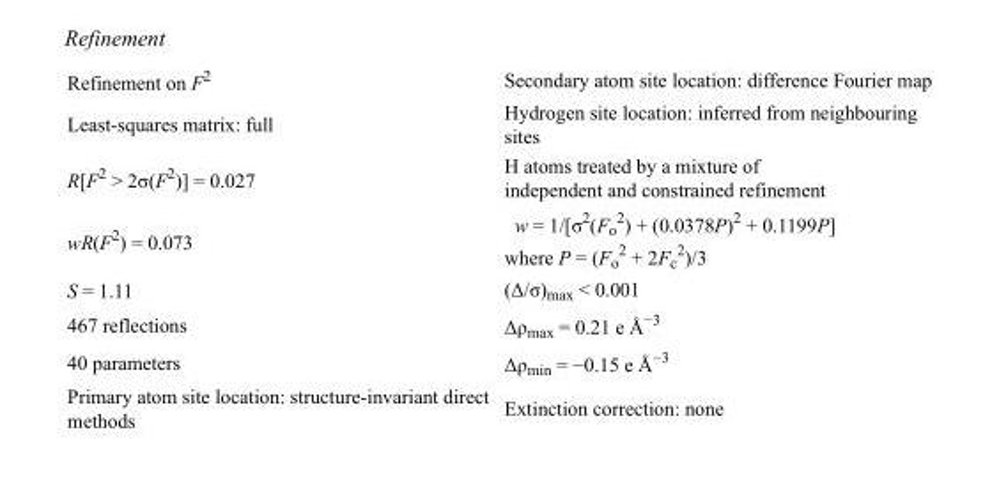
<table><tbody><tr><td>Refinement on F<sup>2</sup></td><td>Secondary atom site location: difference Fourier map</td></tr><tr><td>Least-squares matrix: full</td><td>Hydrogen site location: inferred from neighbouring sites</td></tr><tr><td>R[F<sup>2</sup> &gt; 2σ(F<sup>2</sup>)] = 0.027</td><td>H atoms treated by a mixture of independent and constrained refinement</td></tr><tr><td>wR(F<sup>2</sup>) = 0.073</td><td>w = 1/[σ<sup>2</sup>(F<sub>o</sub> <sup>2</sup>) + (0.0378P)<sup>2</sup> + 0.1199P] where P = (F<sub>o</sub> <sup>2</sup> + 2F<sub>c</sub> <sup>2</sup>)/3</td></tr><tr><td>S = 1.11</td><td>(Δ/σ)<sub>max</sub> &lt; 0.001</td></tr><tr><td>467 reflections</td><td>Δρ<sub>max</sub> = 0.21 e Å<sup>−3</sup></td></tr><tr><td>40 parameters</td><td>Δρ<sub>min</sub> = −0.15 e Å<sup>−3</sup></td></tr><tr><td>Primary atom site location: structure-invariant direct methods</td><td>Extinction correction: none</td></tr></tbody></table>